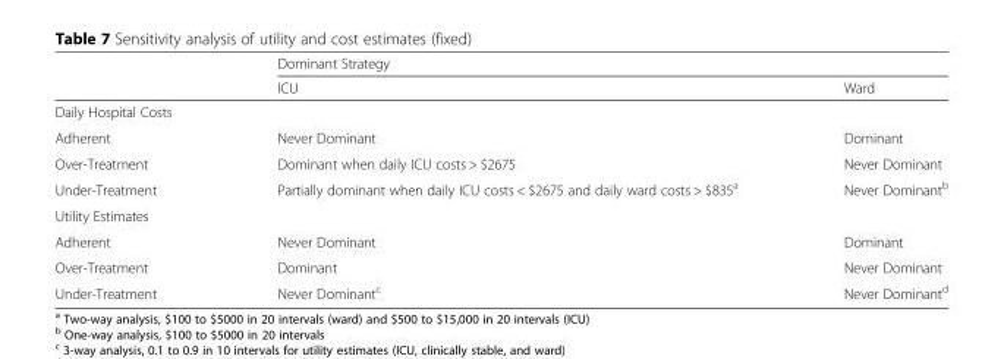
<table><thead><tr><td rowspan="2"></td><td colspan="2">Dominant Strategy</td></tr><tr><td>ICU</td><td>Ward</td></tr></thead><tbody><tr><td colspan="3">Daily Hospital Costs</td></tr><tr><td>Adherent</td><td>Never Dominant</td><td>Dominant</td></tr><tr><td>Over-Treatment</td><td>Dominant when daily ICU costs &gt; $2675</td><td>Never Dominant</td></tr><tr><td>Under-Treatment</td><td>Partially dominant when daily ICU costs &lt; $2675 and daily ward costs &gt; $835<sup>a</sup></td><td>Never Dominant<sup>b</sup></td></tr><tr><td colspan="3">Utility Estimates</td></tr><tr><td>Adherent</td><td>Never Dominant</td><td>Dominant</td></tr><tr><td>Over-Treatment</td><td>Dominant</td><td>Never Dominant</td></tr><tr><td>Under-Treatment</td><td>Never Dominant<sup>c</sup></td><td>Never Dominant<sup>d</sup></td></tr></tbody></table>